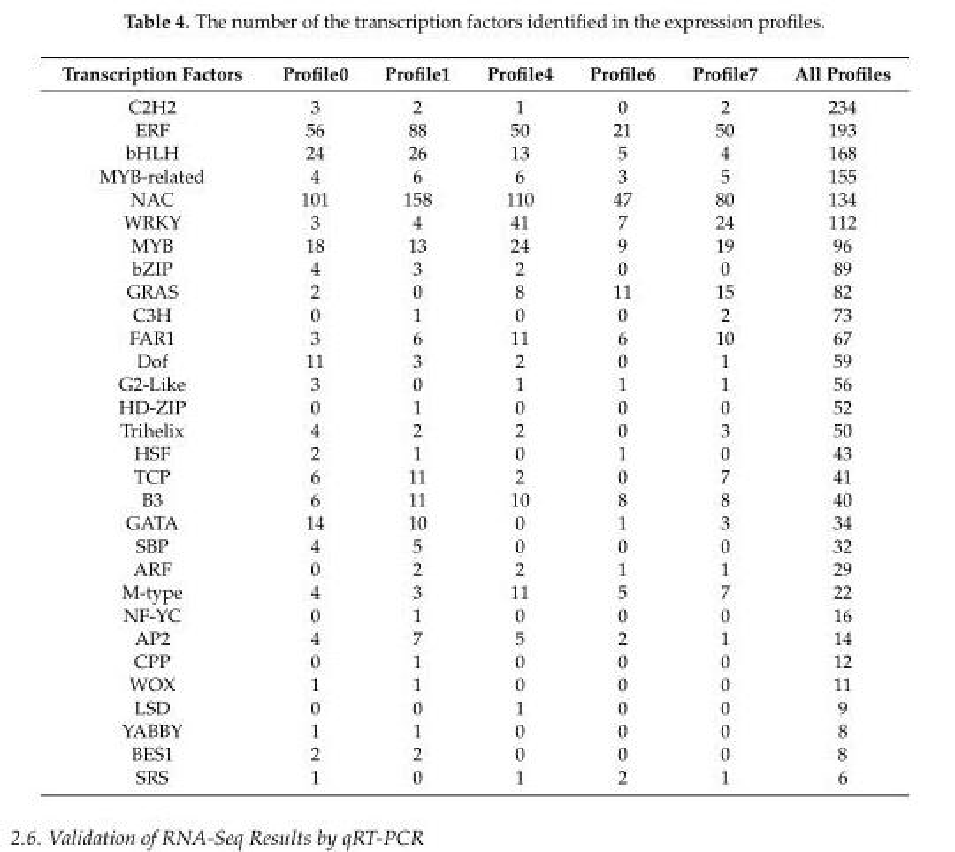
<table><thead><tr><td>Transcription Factors</td><td>Profile0</td><td>Profile1</td><td>Profile4</td><td>Profile6</td><td>Profile7</td><td>All Profiles</td></tr></thead><tbody><tr><td>C2H2</td><td>3</td><td>2</td><td>1</td><td>0</td><td>2</td><td>234</td></tr><tr><td>ERF</td><td>56</td><td>88</td><td>50</td><td>21</td><td>50</td><td>193</td></tr><tr><td>bHLH</td><td>24</td><td>26</td><td>13</td><td>5</td><td>4</td><td>168</td></tr><tr><td>MYB-related</td><td>4</td><td>6</td><td>6</td><td>3</td><td>5</td><td>155</td></tr><tr><td>NAC</td><td>101</td><td>158</td><td>110</td><td>47</td><td>80</td><td>134</td></tr><tr><td>WRKY</td><td>3</td><td>4</td><td>41</td><td>7</td><td>24</td><td>112</td></tr><tr><td>MYB</td><td>18</td><td>13</td><td>24</td><td>9</td><td>19</td><td>96</td></tr><tr><td>bZIP</td><td>4</td><td>3</td><td>2</td><td>0</td><td>0</td><td>89</td></tr><tr><td>GRAS</td><td>2</td><td>0</td><td>8</td><td>11</td><td>15</td><td>82</td></tr><tr><td>C3H</td><td>0</td><td>1</td><td>0</td><td>0</td><td>2</td><td>73</td></tr><tr><td>FAR1</td><td>3</td><td>6</td><td>11</td><td>6</td><td>10</td><td>67</td></tr><tr><td>Dof</td><td>11</td><td>3</td><td>2</td><td>0</td><td>1</td><td>59</td></tr><tr><td>G2-Like</td><td>3</td><td>0</td><td>1</td><td>1</td><td>1</td><td>56</td></tr><tr><td>HD-ZIP</td><td>0</td><td>1</td><td>0</td><td>0</td><td>0</td><td>52</td></tr><tr><td>Trihelix</td><td>4</td><td>2</td><td>2</td><td>0</td><td>3</td><td>50</td></tr><tr><td>HSF</td><td>2</td><td>1</td><td>0</td><td>1</td><td>0</td><td>43</td></tr><tr><td>TCP</td><td>6</td><td>11</td><td>2</td><td>0</td><td>7</td><td>41</td></tr><tr><td>B3</td><td>6</td><td>11</td><td>10</td><td>8</td><td>8</td><td>40</td></tr><tr><td>GATA</td><td>14</td><td>10</td><td>0</td><td>1</td><td>3</td><td>34</td></tr><tr><td>SBP</td><td>4</td><td>5</td><td>0</td><td>0</td><td>0</td><td>32</td></tr><tr><td>ARF</td><td>0</td><td>2</td><td>2</td><td>1</td><td>1</td><td>29</td></tr><tr><td>M-type</td><td>4</td><td>3</td><td>11</td><td>5</td><td>7</td><td>22</td></tr><tr><td>NF-YC</td><td>0</td><td>1</td><td>0</td><td>0</td><td>0</td><td>16</td></tr><tr><td>AP2</td><td>4</td><td>7</td><td>5</td><td>2</td><td>1</td><td>14</td></tr><tr><td>CPP</td><td>0</td><td>1</td><td>0</td><td>0</td><td>0</td><td>12</td></tr><tr><td>WOX</td><td>1</td><td>1</td><td>0</td><td>0</td><td>0</td><td>11</td></tr><tr><td>LSD</td><td>0</td><td>0</td><td>1</td><td>0</td><td>0</td><td>9</td></tr><tr><td>YABBY</td><td>1</td><td>1</td><td>0</td><td>0</td><td>0</td><td>8</td></tr><tr><td>BES1</td><td>2</td><td>2</td><td>0</td><td>0</td><td>0</td><td>8</td></tr><tr><td>SRS</td><td>1</td><td>0</td><td>1</td><td>2</td><td>1</td><td>6</td></tr></tbody></table>